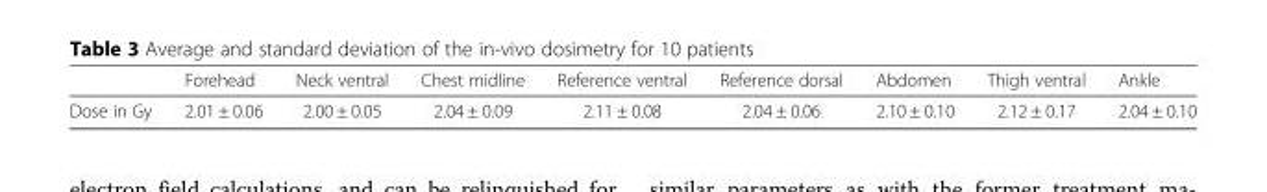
<table><thead><tr><td></td><td>Forehead</td><td>Neck ventral</td><td>Chest midline</td><td>Reference ventral</td><td>Reference dorsal</td><td>Abdomen</td><td>Thigh ventral</td><td>Ankle</td></tr></thead><tbody><tr><td>Dose in Gy</td><td>2.01 ± 0.06</td><td>2.00 ± 0.05</td><td>2.04 ± 0.09</td><td>2.11 ± 0.08</td><td>2.04 ± 0.06</td><td>2.10 ± 0.10</td><td>2.12 ± 0.17</td><td>2.04 ± 0.10</td></tr></tbody></table>